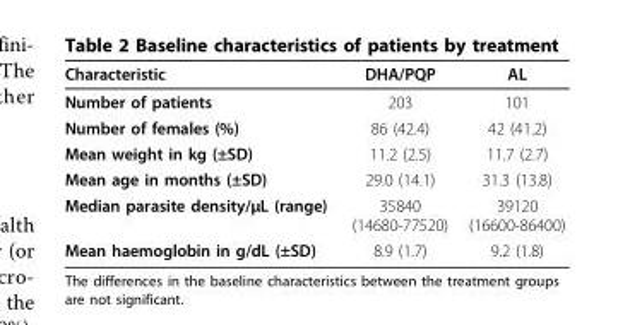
<table><thead><tr><td>Characteristic</td><td>DHA/PQP</td><td>AL</td></tr></thead><tbody><tr><td>Number of patients</td><td>203</td><td>101</td></tr><tr><td>Number of females (%)</td><td>86 (42.4)</td><td>42 (41.2)</td></tr><tr><td>Mean weight in kg (±SD)</td><td>11.2 (2.5)</td><td>11.7 (2.7)</td></tr><tr><td>Mean age in months (±SD)</td><td>29.0 (14.1)</td><td>31.3 (13.8)</td></tr><tr><td>Median parasite density/μL (range)</td><td>35840 (14680-77520)</td><td>39120 (16600-86400)</td></tr><tr><td>Mean haemoglobin in g/dL (±SD)</td><td>8.9 (1.7)</td><td>9.2 (1.8)</td></tr></tbody></table>